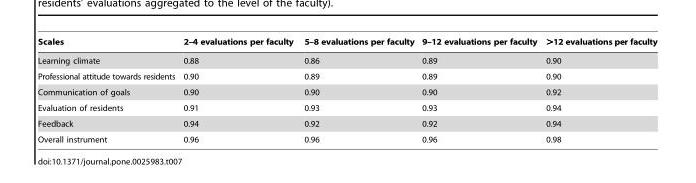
<table><thead><tr><td>Scales</td><td>2–4 evaluations per faculty</td><td>5–8 evaluations per faculty</td><td>9–12 evaluations per faculty</td><td>&gt;12 evaluations per faculty</td></tr></thead><tbody><tr><td>Learning climate</td><td>0.88</td><td>0.86</td><td>0.89</td><td>0.90</td></tr><tr><td>Professional attitude towards residents</td><td>0.90</td><td>0.89</td><td>0.89</td><td>0.90</td></tr><tr><td>Communication of goals</td><td>0.90</td><td>0.90</td><td>0.90</td><td>0.92</td></tr><tr><td>Evaluation of residents</td><td>0.91</td><td>0.93</td><td>0.93</td><td>0.94</td></tr><tr><td>Feedback</td><td>0.94</td><td>0.92</td><td>0.92</td><td>0.94</td></tr><tr><td>Overall instrument</td><td>0.96</td><td>0.96</td><td>0.96</td><td>0.98</td></tr></tbody></table>